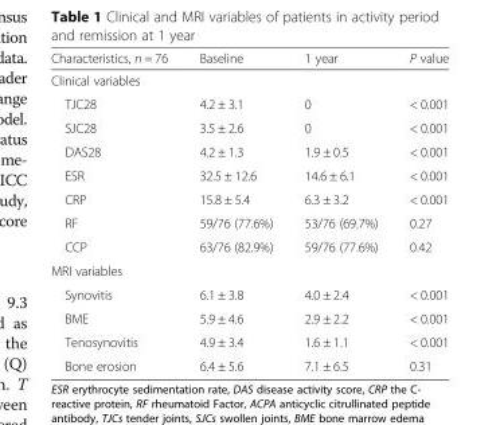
<table><thead><tr><td>Characteristics, n = 76</td><td>Baseline</td><td>1 year</td><td>P value</td></tr></thead><tbody><tr><td colspan="4">Clinical variables</td></tr><tr><td>TJC28</td><td>4.2 ± 3.1</td><td>0</td><td>&lt; 0.001</td></tr><tr><td>SJC28</td><td>3.5 ± 2.6</td><td>0</td><td>&lt; 0.001</td></tr><tr><td>DAS28</td><td>4.2 ± 1.3</td><td>1.9 ± 0.5</td><td>&lt; 0.001</td></tr><tr><td>ESR</td><td>32.5 ± 12.6</td><td>14.6 ± 6.1</td><td>&lt; 0.001</td></tr><tr><td>CRP</td><td>15.8 ± 5.4</td><td>6.3 ± 3.2</td><td>&lt; 0.001</td></tr><tr><td>RF</td><td>59/76 (77.6%)</td><td>53/76 (69.7%)</td><td>0.27</td></tr><tr><td>CCP</td><td>63/76 (82.9%)</td><td>59/76 (77.6%)</td><td>0.42</td></tr><tr><td colspan="4">MRI variables</td></tr><tr><td>Synovitis</td><td>6.1 ± 3.8</td><td>4.0 ± 2.4</td><td>&lt; 0.001</td></tr><tr><td>BME</td><td>5.9 ± 4.6</td><td>2.9 ± 2.2</td><td>&lt; 0.001</td></tr><tr><td>Tenosynovitis</td><td>4.9 ± 3.4</td><td>1.6 ± 1.1</td><td>&lt; 0.001</td></tr><tr><td>Bone erosion</td><td>6.4 ± 5.6</td><td>7.1 ± 6.5</td><td>0.31</td></tr></tbody></table>